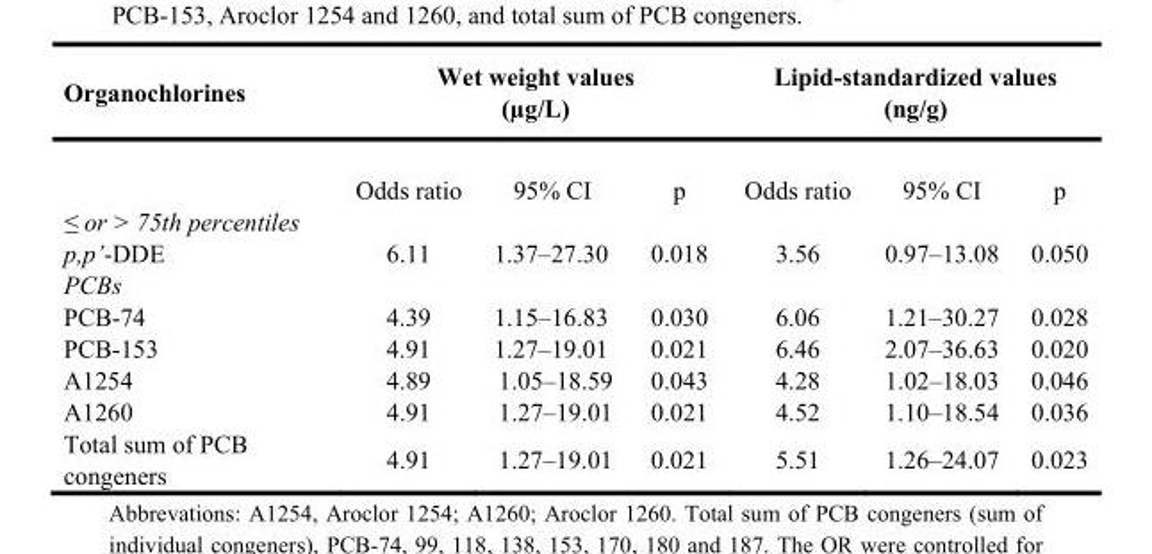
<table><thead><tr><td rowspan="2">Organochlorines</td><td colspan="3">Wet weight values (µg/L)</td><td colspan="3">Lipid-standardized values (ng/g)</td></tr><tr><td>Odds ratio</td><td>95% CI</td><td>p</td><td>Odds ratio</td><td>95% CI</td><td>p</td></tr></thead><tbody><tr><td colspan="7">≤ or &gt; 75th percentiles</td></tr><tr><td>p,p’-DDE</td><td>6.11</td><td>1.37–27.30</td><td>0.018</td><td>3.56</td><td>0.97–13.08</td><td>0.050</td></tr><tr><td colspan="7">PCBs</td></tr><tr><td>PCB-74</td><td>4.39</td><td>1.15–16.83</td><td>0.030</td><td>6.06</td><td>1.21–30.27</td><td>0.028</td></tr><tr><td>PCB-153</td><td>4.91</td><td>1.27–19.01</td><td>0.021</td><td>6.46</td><td>2.07–36.63</td><td>0.020</td></tr><tr><td>A1254</td><td>4.89</td><td>1.05–18.59</td><td>0.043</td><td>4.28</td><td>1.02–18.03</td><td>0.046</td></tr><tr><td>A1260</td><td>4.91</td><td>1.27–19.01</td><td>0.021</td><td>4.52</td><td>1.10–18.54</td><td>0.036</td></tr><tr><td>Total sum of PCB congeners</td><td>4.91</td><td>1.27–19.01</td><td>0.021</td><td>5.51</td><td>1.26–24.07</td><td>0.023</td></tr></tbody></table>